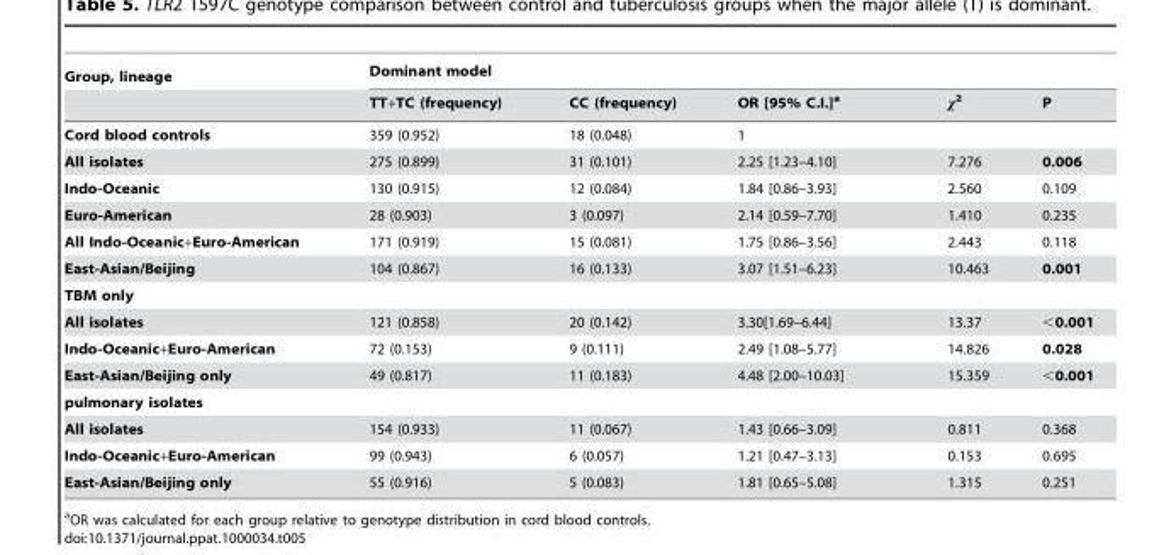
<table><thead><tr><td rowspan="2">Group, lineage</td><td colspan="5">Dominant model</td></tr><tr><td>TT+TC (frequency)</td><td>CC (frequency)</td><td>OR [95% C.I.]<sup>a</sup></td><td>χ<sup>2</sup></td><td>P</td></tr></thead><tbody><tr><td>Cord blood controls</td><td>359 (0.952)</td><td>18 (0.048)</td><td>1</td><td></td><td></td></tr><tr><td>All isolates</td><td>275 (0.899)</td><td>31 (0.101)</td><td>2.25 [1.23–4.10]</td><td>7.276</td><td>0.006</td></tr><tr><td>Indo-Oceanic</td><td>130 (0.915)</td><td>12 (0.084)</td><td>1.84 [0.86–3.93]</td><td>2.560</td><td>0.109</td></tr><tr><td>Euro-American</td><td>28 (0.903)</td><td>3 (0.097)</td><td>2.14 [0.59–7.70]</td><td>1.410</td><td>0.235</td></tr><tr><td>All Indo-Oceanic+Euro-American</td><td>171 (0.919)</td><td>15 (0.081)</td><td>1.75 [0.86–3.56]</td><td>2.443</td><td>0.118</td></tr><tr><td>East-Asian/Beijing</td><td>104 (0.867)</td><td>16 (0.133)</td><td>3.07 [1.51–6.23]</td><td>10.463</td><td>0.001</td></tr><tr><td colspan="6">TBM only</td></tr><tr><td>All isolates</td><td>121 (0.858)</td><td>20 (0.142)</td><td>3.30[1.69–6.44]</td><td>13.37</td><td>&lt;0.001</td></tr><tr><td>Indo-Oceanic+Euro-American</td><td>72 (0.153)</td><td>9 (0.111)</td><td>2.49 [1.08–5.77]</td><td>14.826</td><td>0.028</td></tr><tr><td>East-Asian/Beijing only</td><td>49 (0.817)</td><td>11 (0.183)</td><td>4.48 [2.00–10.03]</td><td>15.359</td><td>&lt;0.001</td></tr><tr><td colspan="6">pulmonary isolates</td></tr><tr><td>All isolates</td><td>154 (0.933)</td><td>11 (0.067)</td><td>1.43 [0.66–3.09]</td><td>0.811</td><td>0.368</td></tr><tr><td>Indo-Oceanic+Euro-American</td><td>99 (0.943)</td><td>6 (0.057)</td><td>1.21 [0.47–3.13]</td><td>0.153</td><td>0.695</td></tr><tr><td>East-Asian/Beijing only</td><td>55 (0.916)</td><td>5 (0.083)</td><td>1.81 [0.65–5.08]</td><td>1.315</td><td>0.251</td></tr></tbody></table>